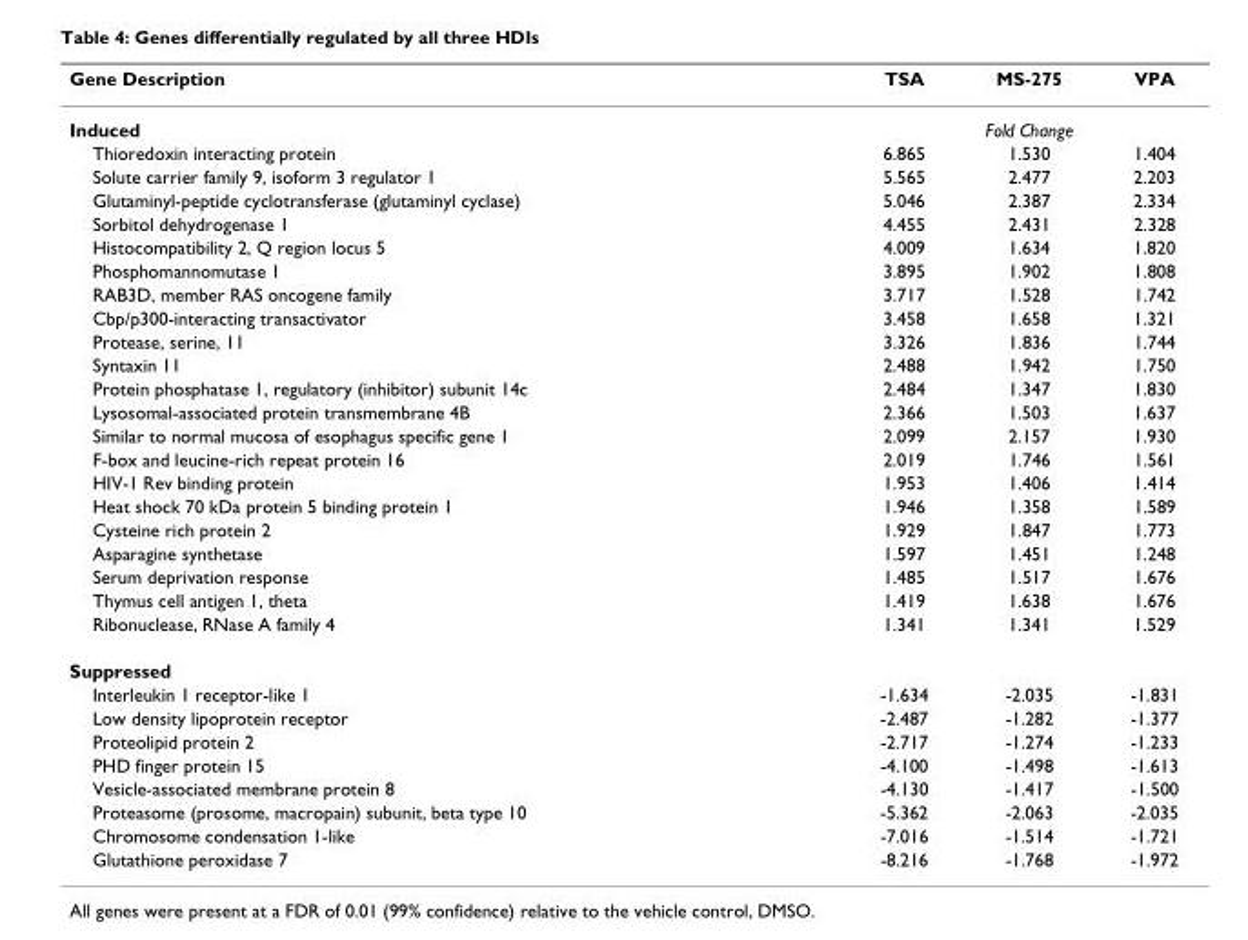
<table><thead><tr><td>Gene Description</td><td>TSA</td><td>MS-275</td><td>VPA</td></tr></thead><tbody><tr><td>Induced</td><td colspan="3">Fold Change</td></tr><tr><td>Thioredoxin interacting protein</td><td>6.865</td><td>1.530</td><td>1.404</td></tr><tr><td>Solute carrier family 9, isoform 3 regulator 1</td><td>5.565</td><td>2.477</td><td>2.203</td></tr><tr><td>Glutaminyl-peptide cyclotransferase (glutaminyl cyclase)</td><td>5.046</td><td>2.387</td><td>2.334</td></tr><tr><td>Sorbitol dehydrogenase 1</td><td>4.455</td><td>2.431</td><td>2.328</td></tr><tr><td>Histocompatibility 2, Q region locus 5</td><td>4.009</td><td>1.634</td><td>1.820</td></tr><tr><td>Phosphomannomutase 1</td><td>3.895</td><td>1.902</td><td>1.808</td></tr><tr><td>RAB3D, member RAS oncogene family</td><td>3.717</td><td>1.528</td><td>1.742</td></tr><tr><td>Cbp/p300-interacting transactivator</td><td>3.458</td><td>1.658</td><td>1.321</td></tr><tr><td>Protease, serine, 11</td><td>3.326</td><td>1.836</td><td>1.744</td></tr><tr><td>Syntaxin 11</td><td>2.488</td><td>1.942</td><td>1.750</td></tr><tr><td>Protein phosphatase 1, regulatory (inhibitor) subunit 14c</td><td>2.484</td><td>1.347</td><td>1.830</td></tr><tr><td>Lysosomal-associated protein transmembrane 4B</td><td>2.366</td><td>1.503</td><td>1.637</td></tr><tr><td>Similar to normal mucosa of esophagus specific gene 1</td><td>2.099</td><td>2.157</td><td>1.930</td></tr><tr><td>F-box and leucine-rich repeat protein 16</td><td>2.019</td><td>1.746</td><td>1.561</td></tr><tr><td>HIV-1 Rev binding protein</td><td>1.953</td><td>1.406</td><td>1.414</td></tr><tr><td>Heat shock 70 kDa protein 5 binding protein 1</td><td>1.946</td><td>1.358</td><td>1.589</td></tr><tr><td>Cysteine rich protein 2</td><td>1.929</td><td>1.847</td><td>1.773</td></tr><tr><td>Asparagine synthetase</td><td>1.597</td><td>1.451</td><td>1.248</td></tr><tr><td>Serum deprivation response</td><td>1.485</td><td>1.517</td><td>1.676</td></tr><tr><td>Thymus cell antigen 1, theta</td><td>1.419</td><td>1.638</td><td>1.676</td></tr><tr><td>Ribonuclease, RNase A family 4</td><td>1.341</td><td>1.341</td><td>1.529</td></tr><tr><td colspan="4">Suppressed</td></tr><tr><td>Interleukin 1 receptor-like 1</td><td>-1.634</td><td>-2.035</td><td>-1.831</td></tr><tr><td>Low density lipoprotein receptor</td><td>-2.487</td><td>-1.282</td><td>-1.377</td></tr><tr><td>Proteolipid protein 2</td><td>-2.717</td><td>-1.274</td><td>-1.233</td></tr><tr><td>PHD finger protein 15</td><td>-4.100</td><td>-1.498</td><td>-1.613</td></tr><tr><td>Vesicle-associated membrane protein 8</td><td>-4.130</td><td>-1.417</td><td>-1.500</td></tr><tr><td>Proteasome (prosome, macropain) subunit, beta type 10</td><td>-5.362</td><td>-2.063</td><td>-2.035</td></tr><tr><td>Chromosome condensation 1-like</td><td>-7.016</td><td>-1.514</td><td>-1.721</td></tr><tr><td>Glutathione peroxidase 7</td><td>-8.216</td><td>-1.768</td><td>-1.972</td></tr></tbody></table>